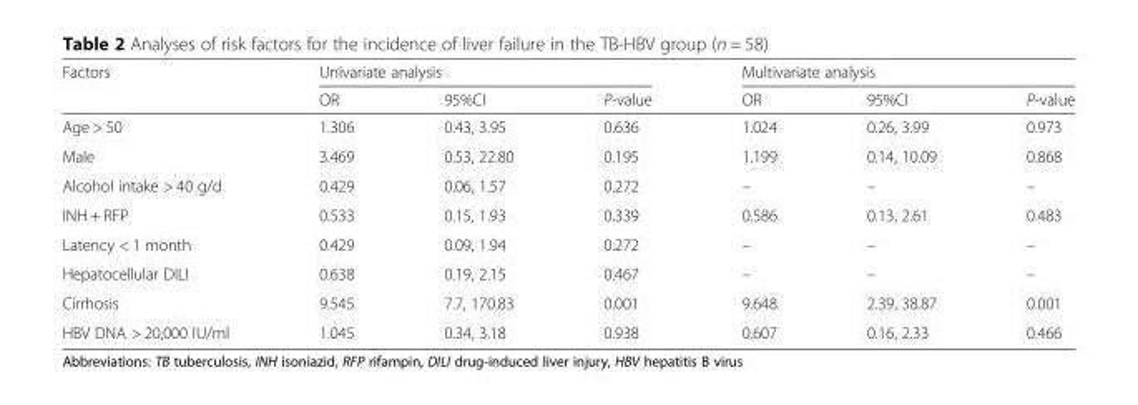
<table><thead><tr><td rowspan="2">Factors</td><td colspan="3">Univariate analysis</td><td colspan="3">Multivariate analysis</td></tr><tr><td>OR</td><td>95%CI</td><td>P-value</td><td>OR</td><td>95%CI</td><td>P-value</td></tr></thead><tbody><tr><td>Age &gt; 50</td><td>1.306</td><td>0.43, 3.95</td><td>0.636</td><td>1.024</td><td>0.26, 3.99</td><td>0.973</td></tr><tr><td>Male</td><td>3.469</td><td>0.53, 22.80</td><td>0.195</td><td>1.199</td><td>0.14, 10.09</td><td>0.868</td></tr><tr><td>Alcohol intake &gt; 40 g/d</td><td>0.429</td><td>0.06, 1.57</td><td>0.272</td><td>–</td><td>–</td><td>–</td></tr><tr><td>INH + RFP</td><td>0.533</td><td>0.15, 1.93</td><td>0.339</td><td>0.586</td><td>0.13, 2.61</td><td>0.483</td></tr><tr><td>Latency &lt; 1 month</td><td>0.429</td><td>0.09, 1.94</td><td>0.272</td><td>–</td><td>–</td><td>–</td></tr><tr><td>Hepatocellular DILI</td><td>0.638</td><td>0.19, 2.15</td><td>0.467</td><td>–</td><td>–</td><td>–</td></tr><tr><td>Cirrhosis</td><td>9.545</td><td>7.7, 170.83</td><td>0.001</td><td>9.648</td><td>2.39, 38.87</td><td>0.001</td></tr><tr><td>HBV DNA &gt; 20,000 IU/ml</td><td>1.045</td><td>0.34, 3.18</td><td>0.938</td><td>0.607</td><td>0.16, 2.33</td><td>0.466</td></tr></tbody></table>